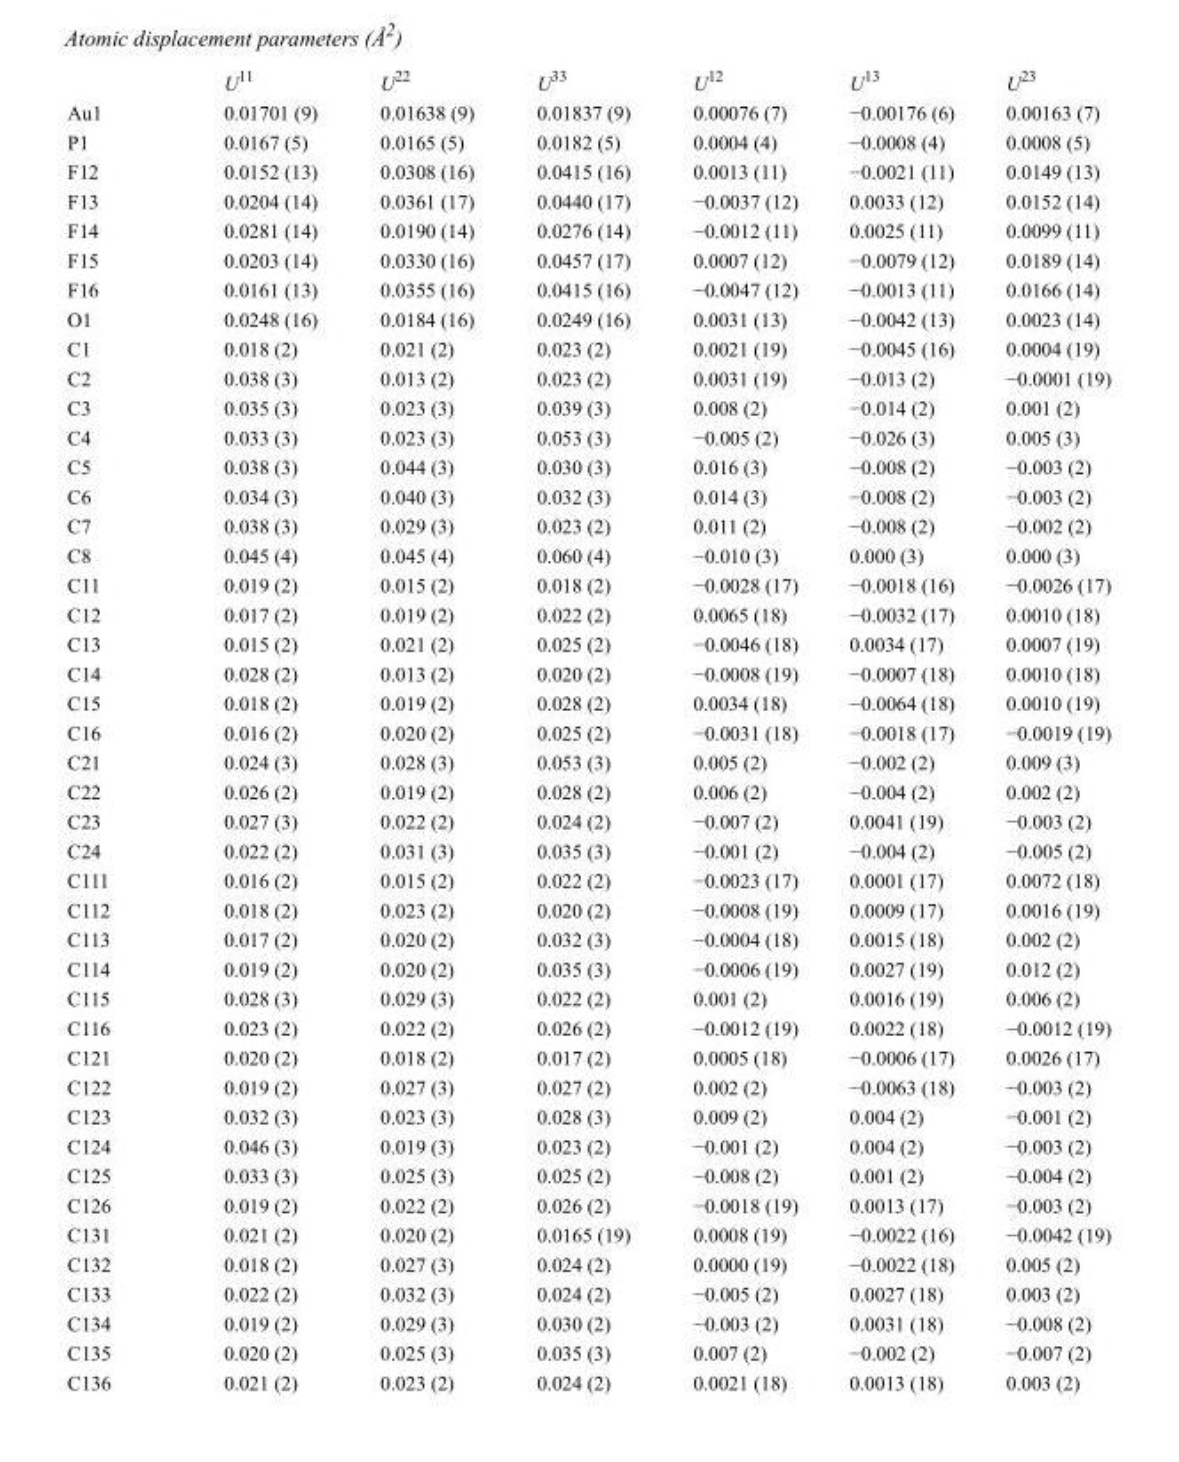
<table><thead><tr><td></td><td>U<sup>11</sup></td><td>U<sup>22</sup></td><td>U<sup>33</sup></td><td>U<sup>12</sup></td><td>U<sup>13</sup></td><td>U<sup>23</sup></td></tr></thead><tbody><tr><td>Au1</td><td>0.01701 (9)</td><td>0.01638 (9)</td><td>0.01837 (9)</td><td>0.00076 (7)</td><td>−0.00176 (6)</td><td>0.00163 (7)</td></tr><tr><td>P1</td><td>0.0167 (5)</td><td>0.0165 (5)</td><td>0.0182 (5)</td><td>0.0004 (4)</td><td>−0.0008 (4)</td><td>0.0008 (5)</td></tr><tr><td>F12</td><td>0.0152 (13)</td><td>0.0308 (16)</td><td>0.0415 (16)</td><td>0.0013 (11)</td><td>−0.0021 (11)</td><td>0.0149 (13)</td></tr><tr><td>F13</td><td>0.0204 (14)</td><td>0.0361 (17)</td><td>0.0440 (17)</td><td>−0.0037 (12)</td><td>0.0033 (12)</td><td>0.0152 (14)</td></tr><tr><td>F14</td><td>0.0281 (14)</td><td>0.0190 (14)</td><td>0.0276 (14)</td><td>−0.0012 (11)</td><td>0.0025 (11)</td><td>0.0099 (11)</td></tr><tr><td>F15</td><td>0.0203 (14)</td><td>0.0330 (16)</td><td>0.0457 (17)</td><td>0.0007 (12)</td><td>−0.0079 (12)</td><td>0.0189 (14)</td></tr><tr><td>F16</td><td>0.0161 (13)</td><td>0.0355 (16)</td><td>0.0415 (16)</td><td>−0.0047 (12)</td><td>−0.0013 (11)</td><td>0.0166 (14)</td></tr><tr><td>O1</td><td>0.0248 (16)</td><td>0.0184 (16)</td><td>0.0249 (16)</td><td>0.0031 (13)</td><td>−0.0042 (13)</td><td>0.0023 (14)</td></tr><tr><td>C1</td><td>0.018 (2)</td><td>0.021 (2)</td><td>0.023 (2)</td><td>0.0021 (19)</td><td>−0.0045 (16)</td><td>0.0004 (19)</td></tr><tr><td>C2</td><td>0.038 (3)</td><td>0.013 (2)</td><td>0.023 (2)</td><td>0.0031 (19)</td><td>−0.013 (2)</td><td>−0.0001 (19)</td></tr><tr><td>C3</td><td>0.035 (3)</td><td>0.023 (3)</td><td>0.039 (3)</td><td>0.008 (2)</td><td>−0.014 (2)</td><td>0.001 (2)</td></tr><tr><td>C4</td><td>0.033 (3)</td><td>0.023 (3)</td><td>0.053 (3)</td><td>−0.005 (2)</td><td>−0.026 (3)</td><td>0.005 (3)</td></tr><tr><td>C5</td><td>0.038 (3)</td><td>0.044 (3)</td><td>0.030 (3)</td><td>0.016 (3)</td><td>−0.008 (2)</td><td>−0.003 (2)</td></tr><tr><td>C6</td><td>0.034 (3)</td><td>0.040 (3)</td><td>0.032 (3)</td><td>0.014 (3)</td><td>−0.008 (2)</td><td>−0.003 (2)</td></tr><tr><td>C7</td><td>0.038 (3)</td><td>0.029 (3)</td><td>0.023 (2)</td><td>0.011 (2)</td><td>−0.008 (2)</td><td>−0.002 (2)</td></tr><tr><td>C8</td><td>0.045 (4)</td><td>0.045 (4)</td><td>0.060 (4)</td><td>−0.010 (3)</td><td>0.000 (3)</td><td>0.000 (3)</td></tr><tr><td>C11</td><td>0.019 (2)</td><td>0.015 (2)</td><td>0.018 (2)</td><td>−0.0028 (17)</td><td>−0.0018 (16)</td><td>−0.0026 (17)</td></tr><tr><td>C12</td><td>0.017 (2)</td><td>0.019 (2)</td><td>0.022 (2)</td><td>0.0065 (18)</td><td>−0.0032 (17)</td><td>0.0010 (18)</td></tr><tr><td>C13</td><td>0.015 (2)</td><td>0.021 (2)</td><td>0.025 (2)</td><td>−0.0046 (18)</td><td>0.0034 (17)</td><td>0.0007 (19)</td></tr><tr><td>C14</td><td>0.028 (2)</td><td>0.013 (2)</td><td>0.020 (2)</td><td>−0.0008 (19)</td><td>−0.0007 (18)</td><td>0.0010 (18)</td></tr><tr><td>C15</td><td>0.018 (2)</td><td>0.019 (2)</td><td>0.028 (2)</td><td>0.0034 (18)</td><td>−0.0064 (18)</td><td>0.0010 (19)</td></tr><tr><td>C16</td><td>0.016 (2)</td><td>0.020 (2)</td><td>0.025 (2)</td><td>−0.0031 (18)</td><td>−0.0018 (17)</td><td>−0.0019 (19)</td></tr><tr><td>C21</td><td>0.024 (3)</td><td>0.028 (3)</td><td>0.053 (3)</td><td>0.005 (2)</td><td>−0.002 (2)</td><td>0.009 (3)</td></tr><tr><td>C22</td><td>0.026 (2)</td><td>0.019 (2)</td><td>0.028 (2)</td><td>0.006 (2)</td><td>−0.004 (2)</td><td>0.002 (2)</td></tr><tr><td>C23</td><td>0.027 (3)</td><td>0.022 (2)</td><td>0.024 (2)</td><td>−0.007 (2)</td><td>0.0041 (19)</td><td>−0.003 (2)</td></tr><tr><td>C24</td><td>0.022 (2)</td><td>0.031 (3)</td><td>0.035 (3)</td><td>−0.001 (2)</td><td>−0.004 (2)</td><td>−0.005 (2)</td></tr><tr><td>C111</td><td>0.016 (2)</td><td>0.015 (2)</td><td>0.022 (2)</td><td>−0.0023 (17)</td><td>0.0001 (17)</td><td>0.0072 (18)</td></tr><tr><td>C112</td><td>0.018 (2)</td><td>0.023 (2)</td><td>0.020 (2)</td><td>−0.0008 (19)</td><td>0.0009 (17)</td><td>0.0016 (19)</td></tr><tr><td>C113</td><td>0.017 (2)</td><td>0.020 (2)</td><td>0.032 (3)</td><td>−0.0004 (18)</td><td>0.0015 (18)</td><td>0.002 (2)</td></tr><tr><td>C114</td><td>0.019 (2)</td><td>0.020 (2)</td><td>0.035 (3)</td><td>−0.0006 (19)</td><td>0.0027 (19)</td><td>0.012 (2)</td></tr><tr><td>C115</td><td>0.028 (3)</td><td>0.029 (3)</td><td>0.022 (2)</td><td>0.001 (2)</td><td>0.0016 (19)</td><td>0.006 (2)</td></tr><tr><td>C116</td><td>0.023 (2)</td><td>0.022 (2)</td><td>0.026 (2)</td><td>−0.0012 (19)</td><td>0.0022 (18)</td><td>−0.0012 (19)</td></tr><tr><td>C121</td><td>0.020 (2)</td><td>0.018 (2)</td><td>0.017 (2)</td><td>0.0005 (18)</td><td>−0.0006 (17)</td><td>0.0026 (17)</td></tr><tr><td>C122</td><td>0.019 (2)</td><td>0.027 (3)</td><td>0.027 (2)</td><td>0.002 (2)</td><td>−0.0063 (18)</td><td>−0.003 (2)</td></tr><tr><td>C123</td><td>0.032 (3)</td><td>0.023 (3)</td><td>0.028 (3)</td><td>0.009 (2)</td><td>0.004 (2)</td><td>−0.001 (2)</td></tr><tr><td>C124</td><td>0.046 (3)</td><td>0.019 (3)</td><td>0.023 (2)</td><td>−0.001 (2)</td><td>0.004 (2)</td><td>−0.003 (2)</td></tr><tr><td>C125</td><td>0.033 (3)</td><td>0.025 (3)</td><td>0.025 (2)</td><td>−0.008 (2)</td><td>0.001 (2)</td><td>−0.004 (2)</td></tr><tr><td>C126</td><td>0.019 (2)</td><td>0.022 (2)</td><td>0.026 (2)</td><td>−0.0018 (19)</td><td>0.0013 (17)</td><td>−0.003 (2)</td></tr><tr><td>C131</td><td>0.021 (2)</td><td>0.020 (2)</td><td>0.0165 (19)</td><td>0.0008 (19)</td><td>−0.0022 (16)</td><td>−0.0042 (19)</td></tr><tr><td>C132</td><td>0.018 (2)</td><td>0.027 (3)</td><td>0.024 (2)</td><td>0.0000 (19)</td><td>−0.0022 (18)</td><td>0.005 (2)</td></tr><tr><td>C133</td><td>0.022 (2)</td><td>0.032 (3)</td><td>0.024 (2)</td><td>−0.005 (2)</td><td>0.0027 (18)</td><td>0.003 (2)</td></tr><tr><td>C134</td><td>0.019 (2)</td><td>0.029 (3)</td><td>0.030 (2)</td><td>−0.003 (2)</td><td>0.0031 (18)</td><td>−0.008 (2)</td></tr><tr><td>C135</td><td>0.020 (2)</td><td>0.025 (3)</td><td>0.035 (3)</td><td>0.007 (2)</td><td>−0.002 (2)</td><td>−0.007 (2)</td></tr><tr><td>C136</td><td>0.021 (2)</td><td>0.023 (2)</td><td>0.024 (2)</td><td>0.0021 (18)</td><td>0.0013 (18)</td><td>0.003 (2)</td></tr></tbody></table>